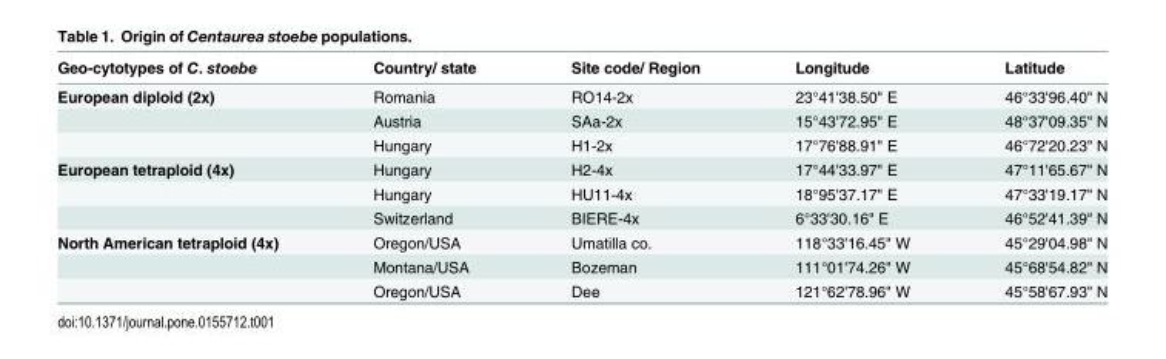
<table><thead><tr><td>Geo-cytotypes of C. stoebe</td><td>Country/ state</td><td>Site code/ Region</td><td>Longitude</td><td>Latitude</td></tr></thead><tbody><tr><td rowspan="3">European diploid (2x)</td><td>Romania</td><td>RO14-2x</td><td>23°41&#x27;38.50&quot; E</td><td>46°33&#x27;96.40&quot; N</td></tr><tr><td>Austria</td><td>SAa-2x</td><td>15°43&#x27;72.95&quot; E</td><td>48°37&#x27;09.35&quot; N</td></tr><tr><td>Hungary</td><td>H1-2x</td><td>17°76&#x27;88.91&quot; E</td><td>46°72&#x27;20.23&quot; N</td></tr><tr><td rowspan="3">European tetraploid (4x)</td><td>Hungary</td><td>H2-4x</td><td>17°44&#x27;33.97&quot; E</td><td>47°11&#x27;65.67&quot; N</td></tr><tr><td>Hungary</td><td>HU11-4x</td><td>18°95&#x27;37.17&quot; E</td><td>47°33&#x27;19.17&quot; N</td></tr><tr><td>Switzerland</td><td>BIERE-4x</td><td>6°33&#x27;30.16&quot; E</td><td>46°52&#x27;41.39&quot; N</td></tr><tr><td rowspan="3">North American tetraploid (4x)</td><td>Oregon/USA</td><td>Umatilla co.</td><td>118°33&#x27;16.45&quot; W</td><td>45°29&#x27;04.98&quot; N</td></tr><tr><td>Montana/USA</td><td>Bozeman</td><td>111°01&#x27;74.26&quot; W</td><td>45°68&#x27;54.82&quot; N</td></tr><tr><td>Oregon/USA</td><td>Dee</td><td>121°62&#x27;78.96&quot; W</td><td>45°58&#x27;67.93&quot; N</td></tr></tbody></table>